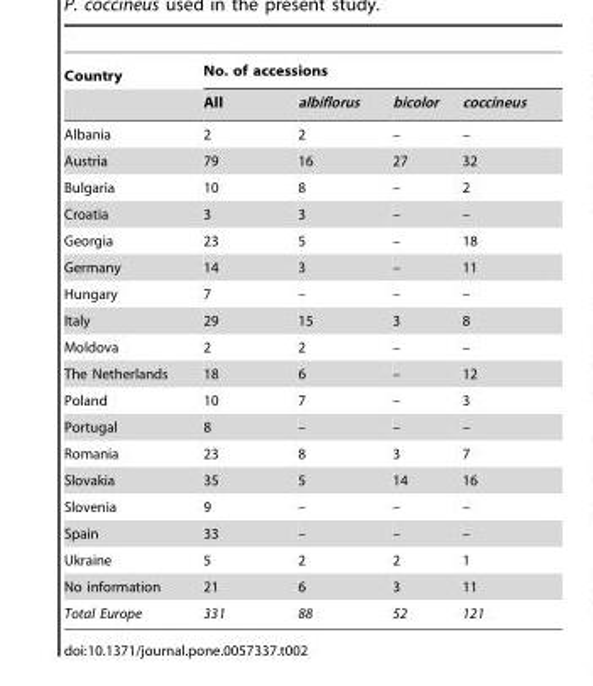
<table><thead><tr><td rowspan="2">Country</td><td colspan="4">No. of accessions</td></tr><tr><td>All</td><td>albiflorus</td><td>bicolor</td><td>coccineus</td></tr></thead><tbody><tr><td>Albania</td><td>2</td><td>2</td><td>–</td><td>–</td></tr><tr><td>Austria</td><td>79</td><td>16</td><td>27</td><td>32</td></tr><tr><td>Bulgaria</td><td>10</td><td>8</td><td>–</td><td>2</td></tr><tr><td>Croatia</td><td>3</td><td>3</td><td>–</td><td>–</td></tr><tr><td>Georgia</td><td>23</td><td>5</td><td>–</td><td>18</td></tr><tr><td>Germany</td><td>14</td><td>3</td><td>–</td><td>11</td></tr><tr><td>Hungary</td><td>7</td><td>–</td><td>–</td><td>–</td></tr><tr><td>Italy</td><td>29</td><td>15</td><td>3</td><td>8</td></tr><tr><td>Moldova</td><td>2</td><td>2</td><td>–</td><td>–</td></tr><tr><td>The Netherlands</td><td>18</td><td>6</td><td>–</td><td>12</td></tr><tr><td>Poland</td><td>10</td><td>7</td><td>–</td><td>3</td></tr><tr><td>Portugal</td><td>8</td><td>–</td><td>–</td><td>–</td></tr><tr><td>Romania</td><td>23</td><td>8</td><td>3</td><td>7</td></tr><tr><td>Slovakia</td><td>35</td><td>5</td><td>14</td><td>16</td></tr><tr><td>Slovenia</td><td>9</td><td>–</td><td>–</td><td>–</td></tr><tr><td>Spain</td><td>33</td><td>–</td><td>–</td><td>–</td></tr><tr><td>Ukraine</td><td>5</td><td>2</td><td>2</td><td>1</td></tr><tr><td>No information</td><td>21</td><td>6</td><td>3</td><td>11</td></tr><tr><td>Total Europe</td><td>331</td><td>88</td><td>52</td><td>121</td></tr></tbody></table>